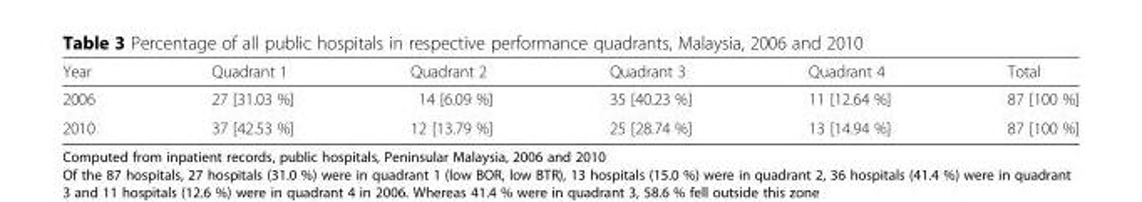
<table><thead><tr><td>Year</td><td>Quadrant 1</td><td>Quadrant 2</td><td>Quadrant 3</td><td>Quadrant 4</td><td>Total</td></tr></thead><tbody><tr><td>2006</td><td>27 [31.03 %]</td><td>14 [6.09 %]</td><td>35 [40.23 %]</td><td>11 [12.64 %]</td><td>87 [100 %]</td></tr><tr><td>2010</td><td>37 [42.53 %]</td><td>12 [13.79 %]</td><td>25 [28.74 %]</td><td>13 [14.94 %]</td><td>87 [100 %]</td></tr></tbody></table>